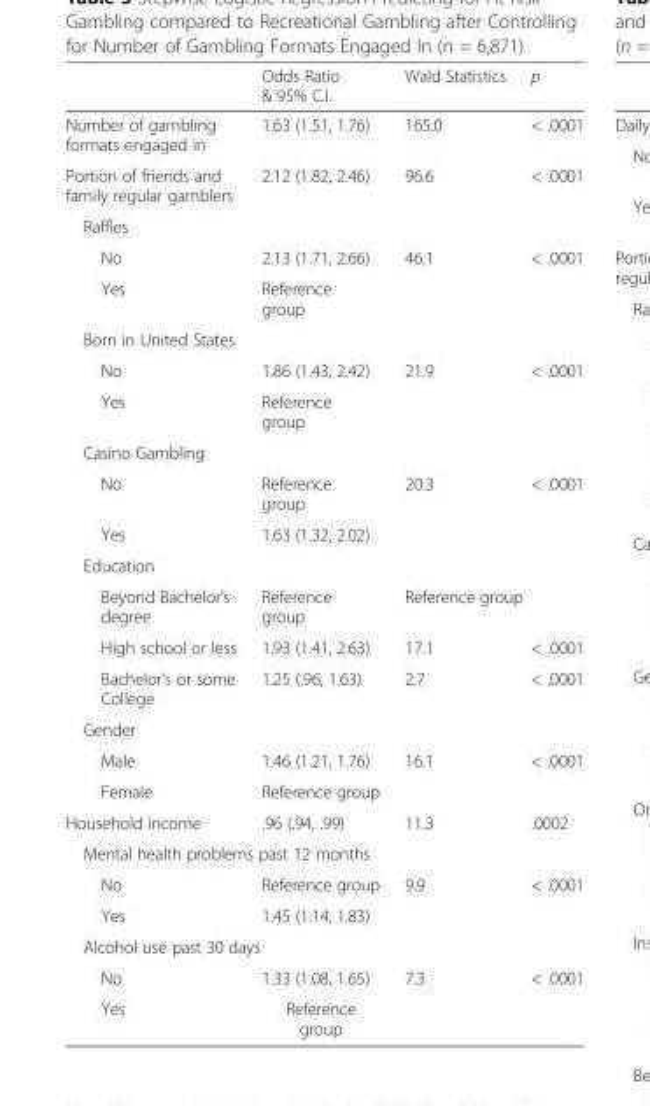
<table><thead><tr><td></td><td>Odds Ratio &amp; 95% C.I.</td><td>Wald Statistics</td><td>p</td></tr></thead><tbody><tr><td>Number of gambling formats engaged in</td><td>1.63 (1.51, 1.76)</td><td>165.0</td><td>&lt; .0001</td></tr><tr><td>Portion of friends and family regular gamblers</td><td>2.12 (1.82, 2.46)</td><td>96.6</td><td>&lt; .0001</td></tr><tr><td colspan="4">Raffles</td></tr><tr><td>No</td><td>2.13 (1.71, 2.66)</td><td rowspan="2">46.1</td><td rowspan="2">&lt; .0001</td></tr><tr><td>Yes</td><td>Reference group</td></tr><tr><td colspan="4">Born in United States</td></tr><tr><td>No</td><td>1.86 (1.43, 2.42)</td><td rowspan="2">21.9</td><td rowspan="2">&lt; .0001</td></tr><tr><td>Yes</td><td>Reference group</td></tr><tr><td colspan="4">Casino Gambling</td></tr><tr><td>No</td><td>Reference group</td><td rowspan="2">20.3</td><td rowspan="2">&lt; .0001</td></tr><tr><td>Yes</td><td>1.63 (1.32, 2.02)</td></tr><tr><td colspan="4">Education</td></tr><tr><td>Beyond Bachelor’s degree</td><td>Reference group</td><td colspan="2">Reference group</td></tr><tr><td>High school or less</td><td>1.93 (1.41, 2.63)</td><td>17.1</td><td>&lt; .0001</td></tr><tr><td>Bachelor’s or some College</td><td>1.25 (.96, 1.63)</td><td>2.7</td><td>&lt; .0001</td></tr><tr><td colspan="4">Gender</td></tr><tr><td>Male</td><td>1.46 (1.21, 1.76)</td><td rowspan="2">16.1</td><td rowspan="2">&lt; .0001</td></tr><tr><td>Female</td><td>Reference group</td></tr><tr><td>Household income</td><td>.96 (.94, .99)</td><td>11.3</td><td>.0002</td></tr><tr><td colspan="4">Mental health problems past 12 months</td></tr><tr><td>No</td><td>Reference group</td><td rowspan="2">9.9</td><td rowspan="2">&lt; .0001</td></tr><tr><td>Yes</td><td>1.45 (1.14, 1.83)</td></tr><tr><td colspan="4">Alcohol use past 30 days</td></tr><tr><td>No</td><td>1.33 (1.08, 1.65)</td><td rowspan="2">7.3</td><td rowspan="2">&lt; .0001</td></tr><tr><td>Yes</td><td>Reference group</td></tr></tbody></table>